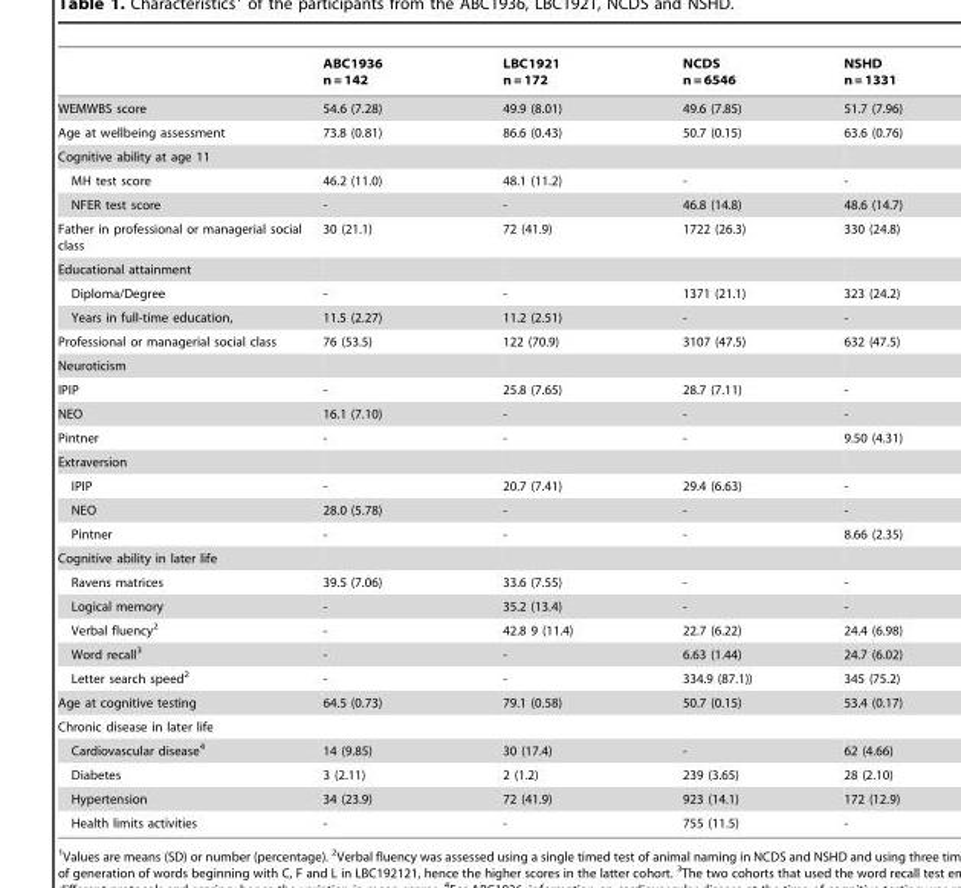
<table><thead><tr><td></td><td>ABC1936 n = 142</td><td>LBC1921 n = 172</td><td>NCDS n = 6546</td><td>NSHD n = 1331</td></tr></thead><tbody><tr><td>WEMWBS score</td><td>54.6 (7.28)</td><td>49.9 (8.01)</td><td>49.6 (7.85)</td><td>51.7 (7.96)</td></tr><tr><td>Age at wellbeing assessment</td><td>73.8 (0.81)</td><td>86.6 (0.43)</td><td>50.7 (0.15)</td><td>63.6 (0.76)</td></tr><tr><td colspan="5">Cognitive ability at age 11</td></tr><tr><td>MH test score</td><td>46.2 (11.0)</td><td>48.1 (11.2)</td><td>-</td><td>-</td></tr><tr><td>NFER test score</td><td>-</td><td>-</td><td>46.8 (14.8)</td><td>48.6 (14.7)</td></tr><tr><td>Father in professional or managerial social class</td><td>30 (21.1)</td><td>72 (41.9)</td><td>1722 (26.3)</td><td>330 (24.8)</td></tr><tr><td colspan="5">Educational attainment</td></tr><tr><td>Diploma/Degree</td><td>-</td><td>-</td><td>1371 (21.1)</td><td>323 (24.2)</td></tr><tr><td>Years in full-time education,</td><td>11.5 (2.27)</td><td>11.2 (2.51)</td><td>-</td><td>-</td></tr><tr><td>Professional or managerial social class</td><td>76 (53.5)</td><td>122 (70.9)</td><td>3107 (47.5)</td><td>632 (47.5)</td></tr><tr><td colspan="5">Neuroticism</td></tr><tr><td>IPIP</td><td>-</td><td>25.8 (7.65)</td><td>28.7 (7.11)</td><td>-</td></tr><tr><td>NEO</td><td>16.1 (7.10)</td><td>-</td><td>-</td><td>-</td></tr><tr><td>Pintner</td><td>-</td><td>-</td><td>-</td><td>9.50 (4.31)</td></tr><tr><td colspan="5">Extraversion</td></tr><tr><td>IPIP</td><td>-</td><td>20.7 (7.41)</td><td>29.4 (6.63)</td><td>-</td></tr><tr><td>NEO</td><td>28.0 (5.78)</td><td>-</td><td>-</td><td>-</td></tr><tr><td>Pintner</td><td>-</td><td>-</td><td>-</td><td>8.66 (2.35)</td></tr><tr><td colspan="5">Cognitive ability in later life</td></tr><tr><td>Ravens matrices</td><td>39.5 (7.06)</td><td>33.6 (7.55)</td><td>-</td><td>-</td></tr><tr><td>Logical memory</td><td>-</td><td>35.2 (13.4)</td><td>-</td><td>-</td></tr><tr><td>Verbal fluency<sup>2</sup></td><td>-</td><td>42.8 9 (11.4)</td><td>22.7 (6.22)</td><td>24.4 (6.98)</td></tr><tr><td>Word recall<sup>3</sup></td><td>-</td><td>-</td><td>6.63 (1.44)</td><td>24.7 (6.02)</td></tr><tr><td>Letter search speed<sup>2</sup></td><td>-</td><td>-</td><td>334.9 (87.1))</td><td>345 (75.2)</td></tr><tr><td>Age at cognitive testing</td><td>64.5 (0.73)</td><td>79.1 (0.58)</td><td>50.7 (0.15)</td><td>53.4 (0.17)</td></tr><tr><td colspan="5">Chronic disease in later life</td></tr><tr><td>Cardiovascular disease<sup>4</sup></td><td>14 (9.85)</td><td>30 (17.4)</td><td>-</td><td>62 (4.66)</td></tr><tr><td>Diabetes</td><td>3 (2.11)</td><td>2 (1.2)</td><td>239 (3.65)</td><td>28 (2.10)</td></tr><tr><td>Hypertension</td><td>34 (23.9)</td><td>72 (41.9)</td><td>923 (14.1)</td><td>172 (12.9)</td></tr><tr><td>Health limits activities</td><td>-</td><td>-</td><td>755 (11.5)</td><td>-</td></tr></tbody></table>